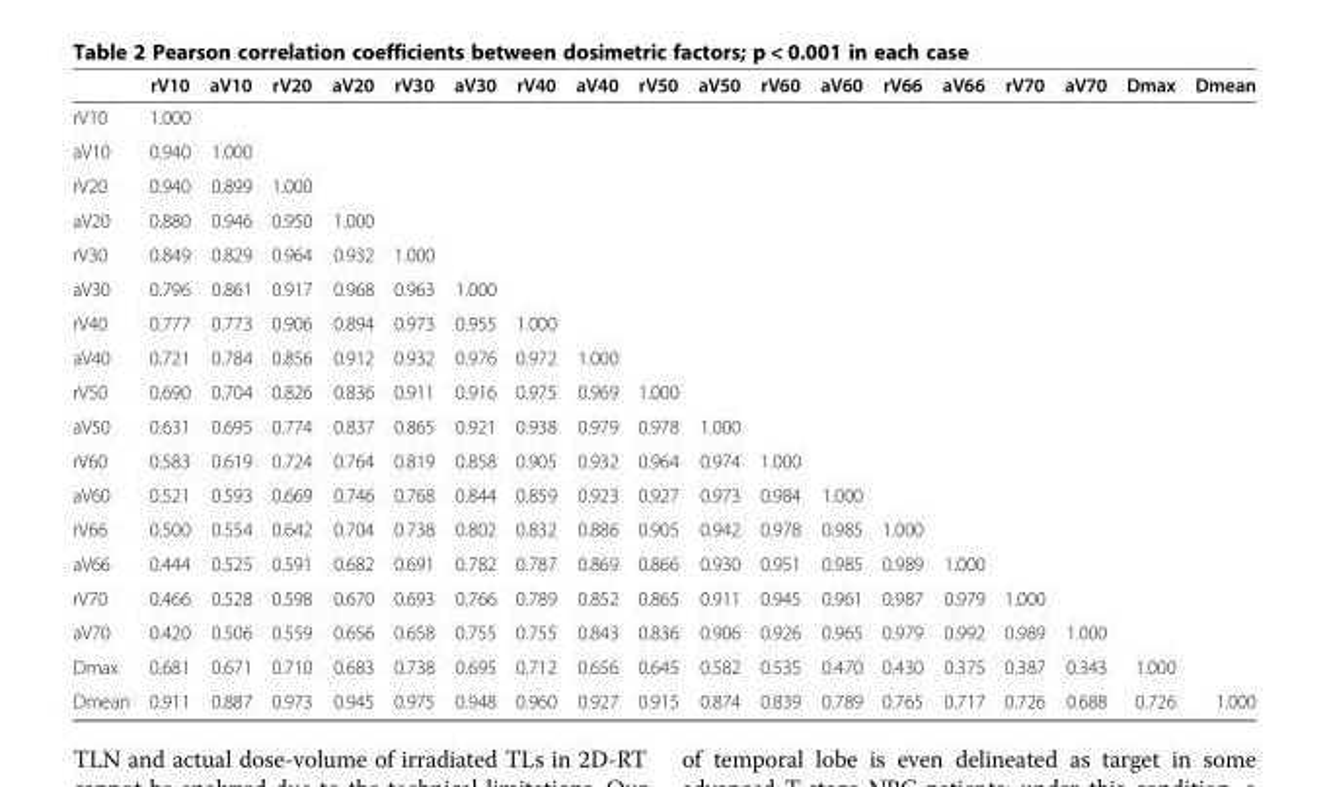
<table><thead><tr><td></td><td>rV10</td><td>aV10</td><td>rV20</td><td>aV20</td><td>rV30</td><td>aV30</td><td>rV40</td><td>aV40</td><td>rV50</td><td>aV50</td><td>rV60</td><td>aV60</td><td>rV66</td><td>aV66</td><td>rV70</td><td>aV70</td><td>Dmax</td><td>Dmean</td></tr></thead><tbody><tr><td>rV10</td><td>1.000</td><td></td><td></td><td></td><td></td><td></td><td></td><td></td><td></td><td></td><td></td><td></td><td></td><td></td><td></td><td></td><td></td><td></td></tr><tr><td>aV10</td><td>0.940</td><td>1.000</td><td></td><td></td><td></td><td></td><td></td><td></td><td></td><td></td><td></td><td></td><td></td><td></td><td></td><td></td><td></td><td></td></tr><tr><td>rV20</td><td>0.940</td><td>0.899</td><td>1.000</td><td></td><td></td><td></td><td></td><td></td><td></td><td></td><td></td><td></td><td></td><td></td><td></td><td></td><td></td><td></td></tr><tr><td>aV20</td><td>0.880</td><td>0.946</td><td>0.950</td><td>1.000</td><td></td><td></td><td></td><td></td><td></td><td></td><td></td><td></td><td></td><td></td><td></td><td></td><td></td><td></td></tr><tr><td>rV30</td><td>0.849</td><td>0.829</td><td>0.964</td><td>0.932</td><td>1.000</td><td></td><td></td><td></td><td></td><td></td><td></td><td></td><td></td><td></td><td></td><td></td><td></td><td></td></tr><tr><td>aV30</td><td>0.796</td><td>0.861</td><td>0.917</td><td>0.968</td><td>0.963</td><td>1.000</td><td></td><td></td><td></td><td></td><td></td><td></td><td></td><td></td><td></td><td></td><td></td><td></td></tr><tr><td>rV40</td><td>0.777</td><td>0.773</td><td>0.906</td><td>0.894</td><td>0.973</td><td>0.955</td><td>1.000</td><td></td><td></td><td></td><td></td><td></td><td></td><td></td><td></td><td></td><td></td><td></td></tr><tr><td>aV40</td><td>0.721</td><td>0.784</td><td>0.856</td><td>0.912</td><td>0.932</td><td>0.976</td><td>0.972</td><td>1.000</td><td></td><td></td><td></td><td></td><td></td><td></td><td></td><td></td><td></td><td></td></tr><tr><td>rV50</td><td>0.690</td><td>0.704</td><td>0.826</td><td>0.836</td><td>0.911</td><td>0.916</td><td>0.975</td><td>0.969</td><td>1.000</td><td></td><td></td><td></td><td></td><td></td><td></td><td></td><td></td><td></td></tr><tr><td>aV50</td><td>0.631</td><td>0.695</td><td>0.774</td><td>0.837</td><td>0.865</td><td>0.921</td><td>0.938</td><td>0.979</td><td>0.978</td><td>1.000</td><td></td><td></td><td></td><td></td><td></td><td></td><td></td><td></td></tr><tr><td>rV60</td><td>0.583</td><td>0.619</td><td>0.724</td><td>0.764</td><td>0.819</td><td>0.858</td><td>0.905</td><td>0.932</td><td>0.964</td><td>0.974</td><td>1.000</td><td></td><td></td><td></td><td></td><td></td><td></td><td></td></tr><tr><td>aV60</td><td>0.521</td><td>0.593</td><td>0.669</td><td>0.746</td><td>0.768</td><td>0.844</td><td>0.859</td><td>0.923</td><td>0.927</td><td>0.973</td><td>0.984</td><td>1.000</td><td></td><td></td><td></td><td></td><td></td><td></td></tr><tr><td>rV66</td><td>0.500</td><td>0.554</td><td>0.642</td><td>0.704</td><td>0.738</td><td>0.802</td><td>0.832</td><td>0.886</td><td>0.905</td><td>0.942</td><td>0.978</td><td>0.985</td><td>1.000</td><td></td><td></td><td></td><td></td><td></td></tr><tr><td>aV66</td><td>0.444</td><td>0.525</td><td>0.591</td><td>0.682</td><td>0.691</td><td>0.782</td><td>0.787</td><td>0.869</td><td>0.866</td><td>0.930</td><td>0.951</td><td>0.985</td><td>0.989</td><td>1.000</td><td></td><td></td><td></td><td></td></tr><tr><td>rV70</td><td>0.466</td><td>0.528</td><td>0.598</td><td>0.670</td><td>0.693</td><td>0.766</td><td>0.789</td><td>0.852</td><td>0.865</td><td>0.911</td><td>0.945</td><td>0.961</td><td>0.987</td><td>0.979</td><td>1.000</td><td></td><td></td><td></td></tr><tr><td>aV70</td><td>0.420</td><td>0.506</td><td>0.559</td><td>0.656</td><td>0.658</td><td>0.755</td><td>0.755</td><td>0.843</td><td>0.836</td><td>0.906</td><td>0.926</td><td>0.965</td><td>0.979</td><td>0.992</td><td>0.989</td><td>1.000</td><td></td><td></td></tr><tr><td>Dmax</td><td>0.681</td><td>0.671</td><td>0.710</td><td>0.683</td><td>0.738</td><td>0.695</td><td>0.712</td><td>0.656</td><td>0.645</td><td>0.582</td><td>0.535</td><td>0.470</td><td>0.430</td><td>0.375</td><td>0.387</td><td>0.343</td><td>1.000</td><td></td></tr><tr><td>Dmean</td><td>0.911</td><td>0.887</td><td>0.973</td><td>0.945</td><td>0.975</td><td>0.948</td><td>0.960</td><td>0.927</td><td>0.915</td><td>0.874</td><td>0.839</td><td>0.789</td><td>0.765</td><td>0.717</td><td>0.726</td><td>0.688</td><td>0.726</td><td>1.000</td></tr></tbody></table>